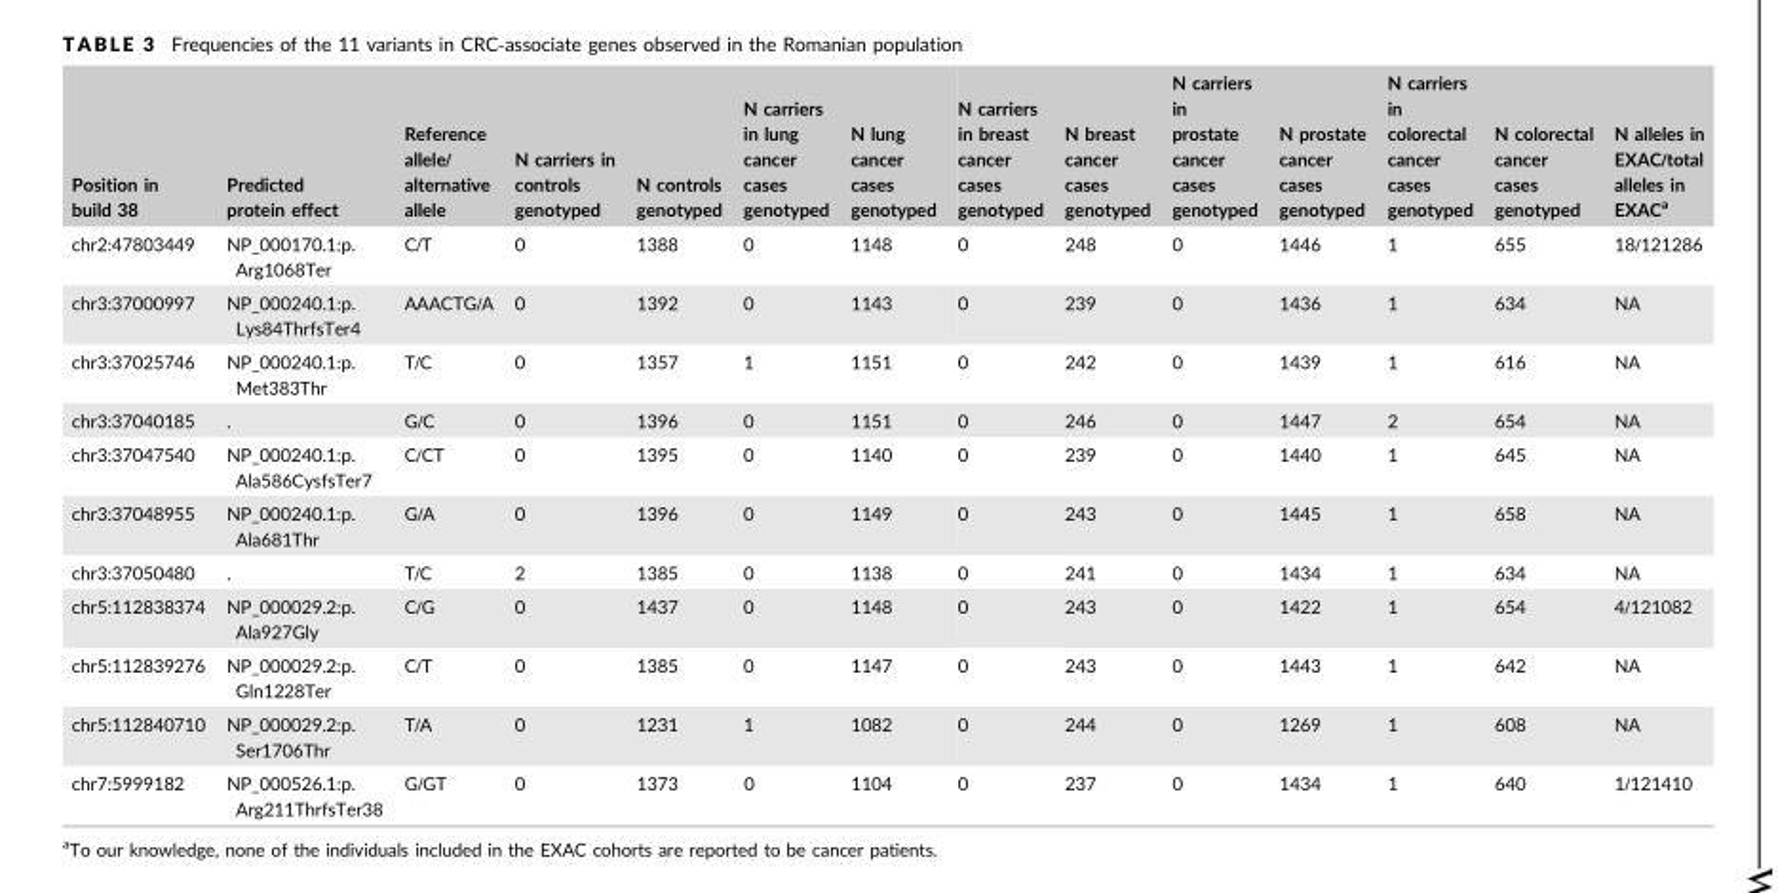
<table><thead><tr><td>Position in build 38</td><td>Predicted protein effect</td><td>Reference allele/ alternative allele</td><td>N carriers in controls genotyped</td><td>N controls genotyped</td><td>N carriers in lung cancer cases genotyped</td><td>N lung cancer cases genotyped</td><td>N carriers in breast cancer cases genotyped</td><td>N breast cancer cases genotyped</td><td>N carriers in prostate cancer cases genotyped</td><td>N prostate cancer cases genotyped</td><td>N carriers in colorectal cancer cases genotyped</td><td>N colorectal cancer cases genotyped</td><td>N alleles in EXAC/total alleles in EXAC<sup>a</sup></td></tr></thead><tbody><tr><td>chr2:47803449</td><td>NP_000170.1:p. Arg1068Ter</td><td>C/T</td><td>0</td><td>1388</td><td>0</td><td>1148</td><td>0</td><td>248</td><td>0</td><td>1446</td><td>1</td><td>655</td><td>18/121286</td></tr><tr><td>chr3:37000997</td><td>NP_000240.1:p. Lys84ThrfsTer4</td><td>AAACTG/A</td><td>0</td><td>1392</td><td>0</td><td>1143</td><td>0</td><td>239</td><td>0</td><td>1436</td><td>1</td><td>634</td><td>NA</td></tr><tr><td>chr3:37025746</td><td>NP_000240.1:p. Met383Thr</td><td>T/C</td><td>0</td><td>1357</td><td>1</td><td>1151</td><td>0</td><td>242</td><td>0</td><td>1439</td><td>1</td><td>616</td><td>NA</td></tr><tr><td>chr3:37040185</td><td>.</td><td>G/C</td><td>0</td><td>1396</td><td>0</td><td>1151</td><td>0</td><td>246</td><td>0</td><td>1447</td><td>2</td><td>654</td><td>NA</td></tr><tr><td>chr3:37047540</td><td>NP_000240.1:p. Ala586CysfsTer7</td><td>C/CT</td><td>0</td><td>1395</td><td>0</td><td>1140</td><td>0</td><td>239</td><td>0</td><td>1440</td><td>1</td><td>645</td><td>NA</td></tr><tr><td>chr3:37048955</td><td>NP_000240.1:p. Ala681Thr</td><td>G/A</td><td>0</td><td>1396</td><td>0</td><td>1149</td><td>0</td><td>243</td><td>0</td><td>1445</td><td>1</td><td>658</td><td>NA</td></tr><tr><td>chr3:37050480</td><td>.</td><td>T/C</td><td>2</td><td>1385</td><td>0</td><td>1138</td><td>0</td><td>241</td><td>0</td><td>1434</td><td>1</td><td>634</td><td>NA</td></tr><tr><td>chr5:112838374</td><td>NP_000029.2:p. Ala927Gly</td><td>C/G</td><td>0</td><td>1437</td><td>0</td><td>1148</td><td>0</td><td>243</td><td>0</td><td>1422</td><td>1</td><td>654</td><td>4/121082</td></tr><tr><td>chr5:112839276</td><td>NP_000029.2:p. Gln1228Ter</td><td>C/T</td><td>0</td><td>1385</td><td>0</td><td>1147</td><td>0</td><td>243</td><td>0</td><td>1443</td><td>1</td><td>642</td><td>NA</td></tr><tr><td>chr5:112840710</td><td>NP_000029.2:p. Ser1706Thr</td><td>T/A</td><td>0</td><td>1231</td><td>1</td><td>1082</td><td>0</td><td>244</td><td>0</td><td>1269</td><td>1</td><td>608</td><td>NA</td></tr><tr><td>chr7:5999182</td><td>NP_000526.1:p. Arg211ThrfsTer38</td><td>G/GT</td><td>0</td><td>1373</td><td>0</td><td>1104</td><td>0</td><td>237</td><td>0</td><td>1434</td><td>1</td><td>640</td><td>1/121410</td></tr></tbody></table>